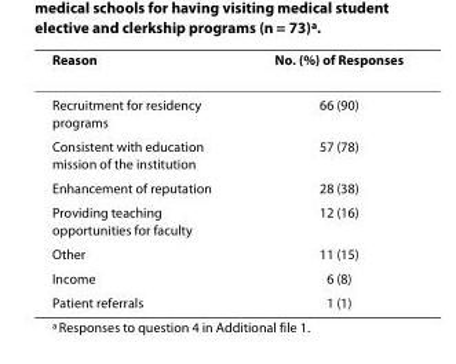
<table><thead><tr><td>Reason</td><td>No. (%) of Responses</td></tr></thead><tbody><tr><td>Recruitment for residency programs</td><td>66 (90)</td></tr><tr><td>Consistent with education mission of the institution</td><td>57 (78)</td></tr><tr><td>Enhancement of reputation</td><td>28 (38)</td></tr><tr><td>Providing teaching opportunities for faculty</td><td>12 (16)</td></tr><tr><td>Other</td><td>11 (15)</td></tr><tr><td>Income</td><td>6 (8)</td></tr><tr><td>Patient referrals</td><td>1 (1)</td></tr></tbody></table>